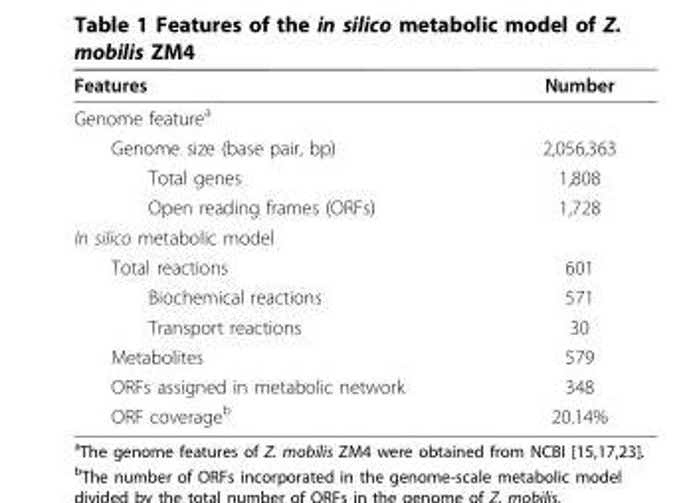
<table><thead><tr><td>Features</td><td>Number</td></tr></thead><tbody><tr><td colspan="2">Genome feature<sup>a</sup></td></tr><tr><td>Genome size (base pair, bp)</td><td>2,056,363</td></tr><tr><td>Total genes</td><td>1,808</td></tr><tr><td>Open reading frames (ORFs)</td><td>1,728</td></tr><tr><td colspan="2">In silico metabolic model</td></tr><tr><td>Total reactions</td><td>601</td></tr><tr><td>Biochemical reactions</td><td>571</td></tr><tr><td>Transport reactions</td><td>30</td></tr><tr><td>Metabolites</td><td>579</td></tr><tr><td>ORFs assigned in metabolic network</td><td>348</td></tr><tr><td>ORF coverage<sup>b</sup></td><td>20.14%</td></tr></tbody></table>